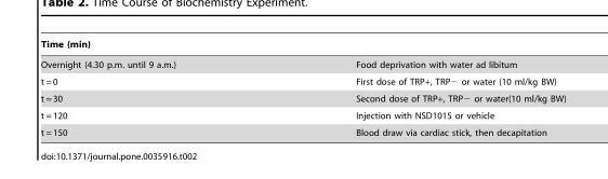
<table><thead><tr><td>Time (min)</td><td></td></tr></thead><tbody><tr><td>Overnight (4.30 p.m. until 9 a.m.)</td><td>Food deprivation with water ad libitum</td></tr><tr><td>t = 0</td><td>First dose of TRP+, TRP− or water (10 ml/kg BW)</td></tr><tr><td>t = 30</td><td>Second dose of TRP+, TRP− or water(10 ml/kg BW)</td></tr><tr><td>t = 120</td><td>Injection with NSD1015 or vehicle</td></tr><tr><td>t = 150</td><td>Blood draw via cardiac stick, then decapitation</td></tr></tbody></table>